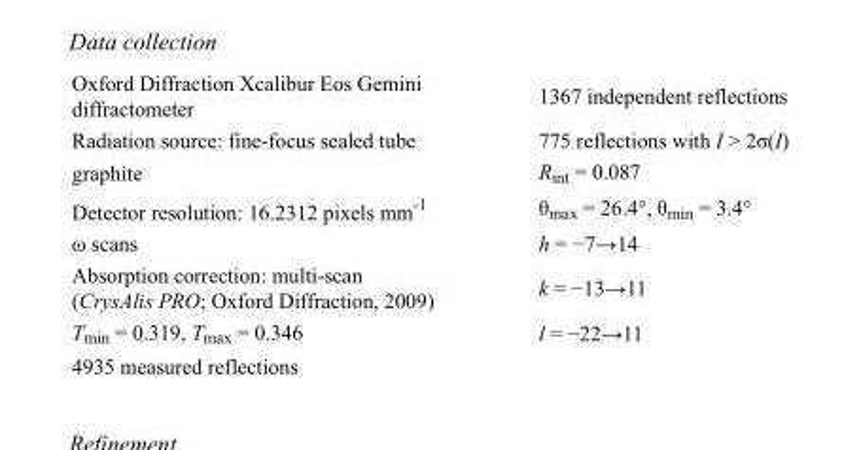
<table><tbody><tr><td>Oxford Diffraction Xcalibur Eos Gemini diffractometer</td><td>1367 independent reflections</td></tr><tr><td>Radiation source: fine-focus sealed tube</td><td>775 reflections with I &gt; 2σ(I)</td></tr><tr><td>graphite</td><td>R<sub>int</sub> = 0.087</td></tr><tr><td>Detector resolution: 16.2312 pixels mm<sup>-1</sup></td><td>θ<sub>max</sub> = 26.4°, θ<sub>min</sub> = 3.4°</td></tr><tr><td>ω scans</td><td>h = −7→14</td></tr><tr><td>Absorption correction: multi-scan (CrysAlis PRO; Oxford Diffraction, 2009)</td><td>k = −13→11</td></tr><tr><td>T<sub>min</sub> = 0.319, T<sub>max</sub> = 0.346</td><td>l = −22→11</td></tr><tr><td>4935 measured reflections</td><td></td></tr></tbody></table>